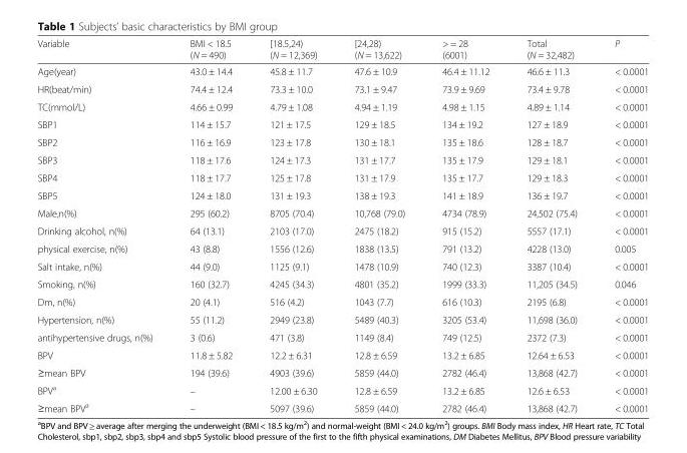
<table><thead><tr><td>Variable</td><td>BMI &lt; 18.5 (N = 490)</td><td>[18.5,24) (N = 12,369)</td><td>[24,28) (N = 13,622)</td><td>&gt; = 28 (6001)</td><td>Total (N = 32,482)</td><td>P</td></tr></thead><tbody><tr><td>Age(year)</td><td>43.0 ± 14.4</td><td>45.8 ± 11.7</td><td>47.6 ± 10.9</td><td>46.4 ± 11.12</td><td>46.6 ± 11.3</td><td>&lt; 0.0001</td></tr><tr><td>HR(beat/min)</td><td>74.4 ± 12.4</td><td>73.3 ± 10.0</td><td>73.1 ± 9.47</td><td>73.9 ± 9.69</td><td>73.4 ± 9.78</td><td>&lt; 0.0001</td></tr><tr><td>TC(mmol/L)</td><td>4.66 ± 0.99</td><td>4.79 ± 1.08</td><td>4.94 ± 1.19</td><td>4.98 ± 1.15</td><td>4.89 ± 1.14</td><td>&lt; 0.0001</td></tr><tr><td>SBP1</td><td>114 ± 15.7</td><td>121 ± 17.5</td><td>129 ± 18.5</td><td>134 ± 19.2</td><td>127 ± 18.9</td><td>&lt; 0.0001</td></tr><tr><td>SBP2</td><td>116 ± 16.9</td><td>123 ± 17.8</td><td>130 ± 18.1</td><td>135 ± 18.6</td><td>128 ± 18.7</td><td>&lt; 0.0001</td></tr><tr><td>SBP3</td><td>118 ± 17.6</td><td>124 ± 17.3</td><td>131 ± 17.7</td><td>135 ± 17.9</td><td>129 ± 18.1</td><td>&lt; 0.0001</td></tr><tr><td>SBP4</td><td>118 ± 17.7</td><td>125 ± 17.8</td><td>131 ± 17.9</td><td>135 ± 17.7</td><td>129 ± 18.3</td><td>&lt; 0.0001</td></tr><tr><td>SBP5</td><td>124 ± 18.0</td><td>131 ± 19.3</td><td>138 ± 19.3</td><td>141 ± 18.9</td><td>136 ± 19.7</td><td>&lt; 0.0001</td></tr><tr><td>Male,n(%)</td><td>295 (60.2)</td><td>8705 (70.4)</td><td>10,768 (79.0)</td><td>4734 (78.9)</td><td>24,502 (75.4)</td><td>&lt; 0.0001</td></tr><tr><td>Drinking alcohol, n(%)</td><td>64 (13.1)</td><td>2103 (17.0)</td><td>2475 (18.2)</td><td>915 (15.2)</td><td>5557 (17.1)</td><td>&lt; 0.0001</td></tr><tr><td>physical exercise, n(%)</td><td>43 (8.8)</td><td>1556 (12.6)</td><td>1838 (13.5)</td><td>791 (13.2)</td><td>4228 (13.0)</td><td>0.005</td></tr><tr><td>Salt intake, n(%)</td><td>44 (9.0)</td><td>1125 (9.1)</td><td>1478 (10.9)</td><td>740 (12.3)</td><td>3387 (10.4)</td><td>&lt; 0.0001</td></tr><tr><td>Smoking, n(%)</td><td>160 (32.7)</td><td>4245 (34.3)</td><td>4801 (35.2)</td><td>1999 (33.3)</td><td>11,205 (34.5)</td><td>0.046</td></tr><tr><td>Dm, n(%)</td><td>20 (4.1)</td><td>516 (4.2)</td><td>1043 (7.7)</td><td>616 (10.3)</td><td>2195 (6.8)</td><td>&lt; 0.0001</td></tr><tr><td>Hypertension, n(%)</td><td>55 (11.2)</td><td>2949 (23.8)</td><td>5489 (40.3)</td><td>3205 (53.4)</td><td>11,698 (36.0)</td><td>&lt; 0.0001</td></tr><tr><td>antihypertensive drugs, n(%)</td><td>3 (0.6)</td><td>471 (3.8)</td><td>1149 (8.4)</td><td>749 (12.5)</td><td>2372 (7.3)</td><td>&lt; 0.0001</td></tr><tr><td>BPV</td><td>11.8 ± 5.82</td><td>12.2 ± 6.31</td><td>12.8 ± 6.59</td><td>13.2 ± 6.85</td><td>12.64 ± 6.53</td><td>&lt; 0.0001</td></tr><tr><td>≥mean BPV</td><td>194 (39.6)</td><td>4903 (39.6)</td><td>5859 (44.0)</td><td>2782 (46.4)</td><td>13,868 (42.7)</td><td>&lt; 0.0001</td></tr><tr><td>BPV<sup>a</sup></td><td>–</td><td>12.00 ± 6.30</td><td>12.8 ± 6.59</td><td>13.2 ± 6.85</td><td>12.6 ± 6.53</td><td>&lt; 0.0001</td></tr><tr><td>≥mean BPV<sup>a</sup></td><td>–</td><td>5097 (39.6)</td><td>5859 (44.0)</td><td>2782 (46.4)</td><td>13,868 (42.7)</td><td>&lt; 0.0001</td></tr></tbody></table>